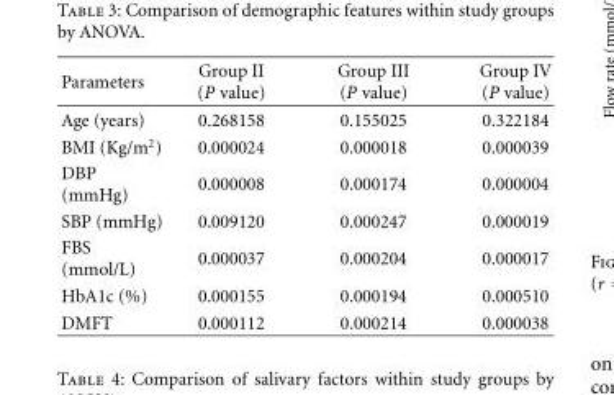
<table><thead><tr><td>Parameters</td><td>Group II (P value)</td><td>Group III (P value)</td><td>Group IV (P value)</td></tr></thead><tbody><tr><td>Age (years)</td><td>0.268158</td><td>0.155025</td><td>0.322184</td></tr><tr><td>BMI (Kg/m<sup>2</sup>)</td><td>0.000024</td><td>0.000018</td><td>0.000039</td></tr><tr><td>DBP (mmHg)</td><td>0.000008</td><td>0.000174</td><td>0.000004</td></tr><tr><td>SBP (mmHg)</td><td>0.009120</td><td>0.000247</td><td>0.000019</td></tr><tr><td>FBS (mmol/L)</td><td>0.000037</td><td>0.000204</td><td>0.000017</td></tr><tr><td>HbA1c (%)</td><td>0.000155</td><td>0.000194</td><td>0.000510</td></tr><tr><td>DMFT</td><td>0.000112</td><td>0.000214</td><td>0.000038</td></tr></tbody></table>